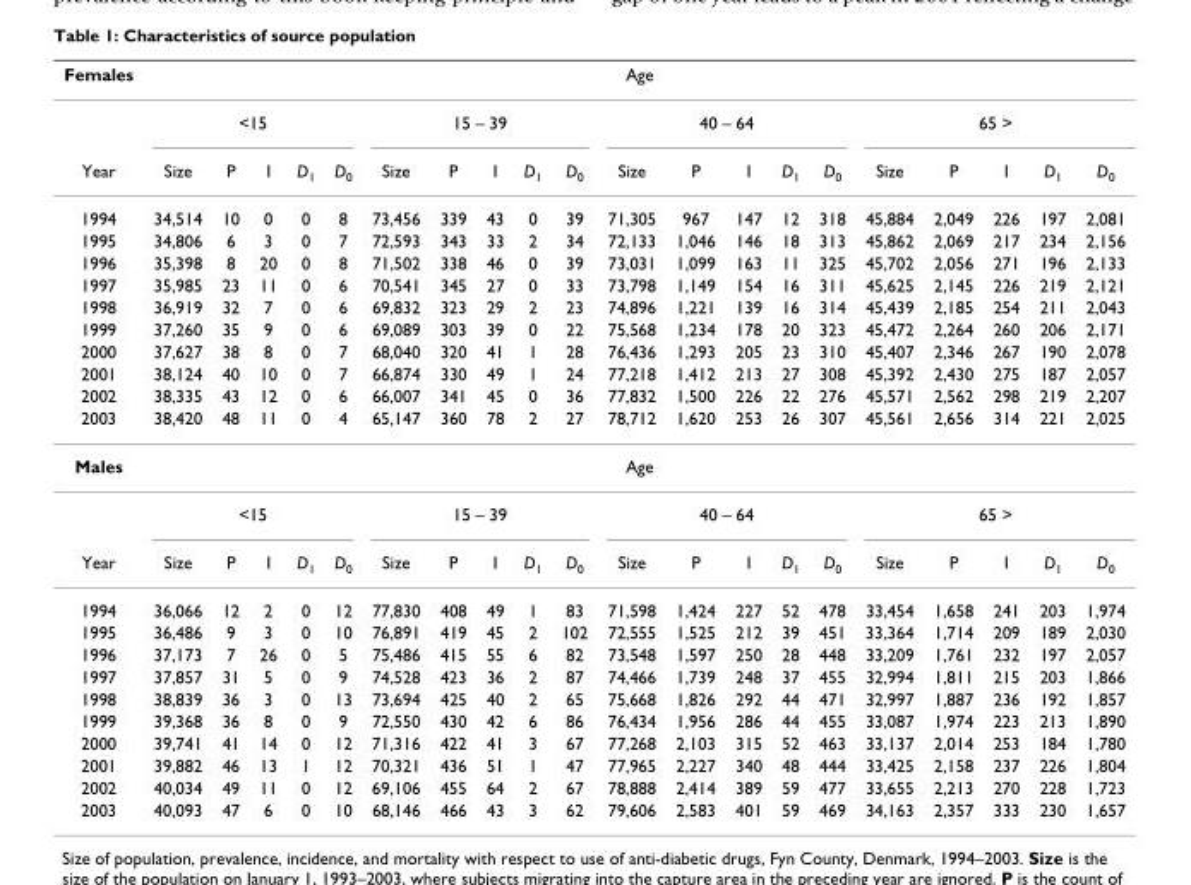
<table><thead><tr><td rowspan="3">Females Year</td><td colspan="20">Age</td></tr><tr><td colspan="5">&lt;15</td><td colspan="5">15 – 39</td><td colspan="5">40 – 64</td><td colspan="5">65 &gt;</td></tr><tr><td>Size</td><td>P</td><td>I</td><td>D<sub>1</sub></td><td>D<sub>0</sub></td><td>Size</td><td>P</td><td>I</td><td>D<sub>1</sub></td><td>D<sub>0</sub></td><td>Size</td><td>P</td><td>I</td><td>D<sub>1</sub></td><td>D<sub>0</sub></td><td>Size</td><td>P</td><td>I</td><td>D<sub>1</sub></td><td>D<sub>0</sub></td></tr></thead><tbody><tr><td>1994</td><td>34,514</td><td>10</td><td>0</td><td>0</td><td>8</td><td>73,456</td><td>339</td><td>43</td><td>0</td><td>39</td><td>71,305</td><td>967</td><td>147</td><td>12</td><td>318</td><td>45,884</td><td>2,049</td><td>226</td><td>197</td><td>2,081</td></tr><tr><td>1995</td><td>34,806</td><td>6</td><td>3</td><td>0</td><td>7</td><td>72,593</td><td>343</td><td>33</td><td>2</td><td>34</td><td>72,133</td><td>1,046</td><td>146</td><td>18</td><td>313</td><td>45,862</td><td>2,069</td><td>217</td><td>234</td><td>2,156</td></tr><tr><td>1996</td><td>35,398</td><td>8</td><td>20</td><td>0</td><td>8</td><td>71,502</td><td>338</td><td>46</td><td>0</td><td>39</td><td>73,031</td><td>1,099</td><td>163</td><td>11</td><td>325</td><td>45,702</td><td>2,056</td><td>271</td><td>196</td><td>2,133</td></tr><tr><td>1997</td><td>35,985</td><td>23</td><td>11</td><td>0</td><td>6</td><td>70,541</td><td>345</td><td>27</td><td>0</td><td>33</td><td>73,798</td><td>1,149</td><td>154</td><td>16</td><td>311</td><td>45,625</td><td>2,145</td><td>226</td><td>219</td><td>2,121</td></tr><tr><td>1998</td><td>36,919</td><td>32</td><td>7</td><td>0</td><td>6</td><td>69,832</td><td>323</td><td>29</td><td>2</td><td>23</td><td>74,896</td><td>1,221</td><td>139</td><td>16</td><td>314</td><td>45,439</td><td>2,185</td><td>254</td><td>211</td><td>2,043</td></tr><tr><td>1999</td><td>37,260</td><td>35</td><td>9</td><td>0</td><td>6</td><td>69,089</td><td>303</td><td>39</td><td>0</td><td>22</td><td>75,568</td><td>1,234</td><td>178</td><td>20</td><td>323</td><td>45,472</td><td>2,264</td><td>260</td><td>206</td><td>2,171</td></tr><tr><td>2000</td><td>37,627</td><td>38</td><td>8</td><td>0</td><td>7</td><td>68,040</td><td>320</td><td>41</td><td>1</td><td>28</td><td>76,436</td><td>1,293</td><td>205</td><td>23</td><td>310</td><td>45,407</td><td>2,346</td><td>267</td><td>190</td><td>2,078</td></tr><tr><td>2001</td><td>38,124</td><td>40</td><td>10</td><td>0</td><td>7</td><td>66,874</td><td>330</td><td>49</td><td>1</td><td>24</td><td>77,218</td><td>1,412</td><td>213</td><td>27</td><td>308</td><td>45,392</td><td>2,430</td><td>275</td><td>187</td><td>2,057</td></tr><tr><td>2002</td><td>38,335</td><td>43</td><td>12</td><td>0</td><td>6</td><td>66,007</td><td>341</td><td>45</td><td>0</td><td>36</td><td>77,832</td><td>1,500</td><td>226</td><td>22</td><td>276</td><td>45,571</td><td>2,562</td><td>298</td><td>219</td><td>2,207</td></tr><tr><td>2003</td><td>38,420</td><td>48</td><td>11</td><td>0</td><td>4</td><td>65,147</td><td>360</td><td>78</td><td>2</td><td>27</td><td>78,712</td><td>1,620</td><td>253</td><td>26</td><td>307</td><td>45,561</td><td>2,656</td><td>314</td><td>221</td><td>2,025</td></tr><tr><td rowspan="2">Males</td><td colspan="20">Age</td></tr><tr><td colspan="5">&lt;15</td><td colspan="5">15 – 39</td><td colspan="5">40 – 64</td><td colspan="5">65 &gt;</td></tr><tr><td>Year</td><td>Size</td><td>P</td><td>I</td><td>D<sub>1</sub></td><td>D<sub>0</sub></td><td>Size</td><td>P</td><td>I</td><td>D<sub>1</sub></td><td>D<sub>0</sub></td><td>Size</td><td>P</td><td>I</td><td>D<sub>1</sub></td><td>D<sub>0</sub></td><td>Size</td><td>P</td><td>I</td><td>D<sub>1</sub></td><td>D<sub>0</sub></td></tr><tr><td>1994</td><td>36,066</td><td>12</td><td>2</td><td>0</td><td>12</td><td>77,830</td><td>408</td><td>49</td><td>1</td><td>83</td><td>71,598</td><td>1,424</td><td>227</td><td>52</td><td>478</td><td>33,454</td><td>1,658</td><td>241</td><td>203</td><td>1,974</td></tr><tr><td>1995</td><td>36,486</td><td>9</td><td>3</td><td>0</td><td>10</td><td>76,891</td><td>419</td><td>45</td><td>2</td><td>102</td><td>72,555</td><td>1,525</td><td>212</td><td>39</td><td>451</td><td>33,364</td><td>1,714</td><td>209</td><td>189</td><td>2,030</td></tr><tr><td>1996</td><td>37,173</td><td>7</td><td>26</td><td>0</td><td>5</td><td>75,486</td><td>415</td><td>55</td><td>6</td><td>82</td><td>73,548</td><td>1,597</td><td>250</td><td>28</td><td>448</td><td>33,209</td><td>1,761</td><td>232</td><td>197</td><td>2,057</td></tr><tr><td>1997</td><td>37,857</td><td>31</td><td>5</td><td>0</td><td>9</td><td>74,528</td><td>423</td><td>36</td><td>2</td><td>87</td><td>74,466</td><td>1,739</td><td>248</td><td>37</td><td>455</td><td>32,994</td><td>1,811</td><td>215</td><td>203</td><td>1,866</td></tr><tr><td>1998</td><td>38,839</td><td>36</td><td>3</td><td>0</td><td>13</td><td>73,694</td><td>425</td><td>40</td><td>2</td><td>65</td><td>75,668</td><td>1,826</td><td>292</td><td>44</td><td>471</td><td>32,997</td><td>1,887</td><td>236</td><td>192</td><td>1,857</td></tr><tr><td>1999</td><td>39,368</td><td>36</td><td>8</td><td>0</td><td>9</td><td>72,550</td><td>430</td><td>42</td><td>6</td><td>86</td><td>76,434</td><td>1,956</td><td>286</td><td>44</td><td>455</td><td>33,087</td><td>1,974</td><td>223</td><td>213</td><td>1,890</td></tr><tr><td>2000</td><td>39,741</td><td>41</td><td>14</td><td>0</td><td>12</td><td>71,316</td><td>422</td><td>41</td><td>3</td><td>67</td><td>77,268</td><td>2,103</td><td>315</td><td>52</td><td>463</td><td>33,137</td><td>2,014</td><td>253</td><td>184</td><td>1,780</td></tr><tr><td>2001</td><td>39,882</td><td>46</td><td>13</td><td>1</td><td>12</td><td>70,321</td><td>436</td><td>51</td><td>1</td><td>47</td><td>77,965</td><td>2,227</td><td>340</td><td>48</td><td>444</td><td>33,425</td><td>2,158</td><td>237</td><td>226</td><td>1,804</td></tr><tr><td>2002</td><td>40,034</td><td>49</td><td>11</td><td>0</td><td>12</td><td>69,106</td><td>455</td><td>64</td><td>2</td><td>67</td><td>78,888</td><td>2,414</td><td>389</td><td>59</td><td>477</td><td>33,655</td><td>2,213</td><td>270</td><td>228</td><td>1,723</td></tr><tr><td>2003</td><td>40,093</td><td>47</td><td>6</td><td>0</td><td>10</td><td>68,146</td><td>466</td><td>43</td><td>3</td><td>62</td><td>79,606</td><td>2,583</td><td>401</td><td>59</td><td>469</td><td>34,163</td><td>2,357</td><td>333</td><td>230</td><td>1,657</td></tr></tbody></table>